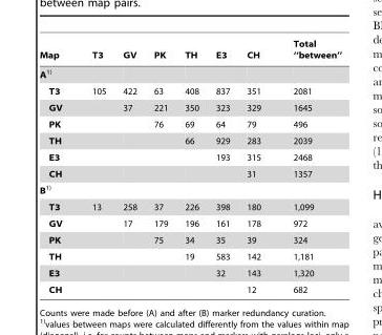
<table><thead><tr><td>Map</td><td>T3</td><td>GV</td><td>PK</td><td>TH</td><td>E3</td><td>CH</td><td>Total ‘‘between’’</td></tr></thead><tbody><tr><td colspan="8">A1)</td></tr><tr><td>T3</td><td>105</td><td>422</td><td>63</td><td>408</td><td>837</td><td>351</td><td>2081</td></tr><tr><td>GV</td><td></td><td>37</td><td>221</td><td>350</td><td>323</td><td>329</td><td>1645</td></tr><tr><td>PK</td><td></td><td></td><td>76</td><td>69</td><td>64</td><td>79</td><td>496</td></tr><tr><td>TH</td><td></td><td></td><td></td><td>66</td><td>929</td><td>283</td><td>2039</td></tr><tr><td>E3</td><td></td><td></td><td></td><td></td><td>193</td><td>315</td><td>2468</td></tr><tr><td>CH</td><td></td><td></td><td></td><td></td><td></td><td>31</td><td>1357</td></tr><tr><td colspan="8">B1)</td></tr><tr><td>T3</td><td>13</td><td>258</td><td>37</td><td>226</td><td>398</td><td>180</td><td>1,099</td></tr><tr><td>GV</td><td></td><td>17</td><td>179</td><td>196</td><td>161</td><td>178</td><td>972</td></tr><tr><td>PK</td><td></td><td></td><td>75</td><td>34</td><td>35</td><td>39</td><td>324</td></tr><tr><td>TH</td><td></td><td></td><td></td><td>19</td><td>583</td><td>142</td><td>1,181</td></tr><tr><td>E3</td><td></td><td></td><td></td><td></td><td>32</td><td>143</td><td>1,320</td></tr><tr><td>CH</td><td></td><td></td><td></td><td></td><td></td><td>12</td><td>682</td></tr></tbody></table>